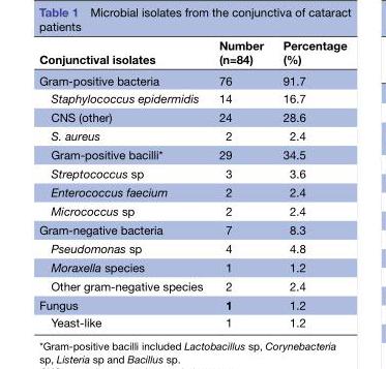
<table><thead><tr><td>Conjunctival isolates</td><td>Number (n=84)</td><td>Percentage (%)</td></tr></thead><tbody><tr><td>Gram-positive bacteria</td><td>76</td><td>91.7</td></tr><tr><td>Staphylococcus epidermidis</td><td>14</td><td>16.7</td></tr><tr><td>CNS (other)</td><td>24</td><td>28.6</td></tr><tr><td>S. aureus</td><td>2</td><td>2.4</td></tr><tr><td>Gram-positive bacilli*</td><td>29</td><td>34.5</td></tr><tr><td>Streptococcus sp</td><td>3</td><td>3.6</td></tr><tr><td>Enterococcus faecium</td><td>2</td><td>2.4</td></tr><tr><td>Micrococcus sp</td><td>2</td><td>2.4</td></tr><tr><td>Gram-negative bacteria</td><td>7</td><td>8.3</td></tr><tr><td>Pseudomonas sp</td><td>4</td><td>4.8</td></tr><tr><td>Moraxella species</td><td>1</td><td>1.2</td></tr><tr><td>Other gram-negative species</td><td>2</td><td>2.4</td></tr><tr><td>Fungus</td><td>1</td><td>1.2</td></tr><tr><td>Yeast-like</td><td>1</td><td>1.2</td></tr></tbody></table>